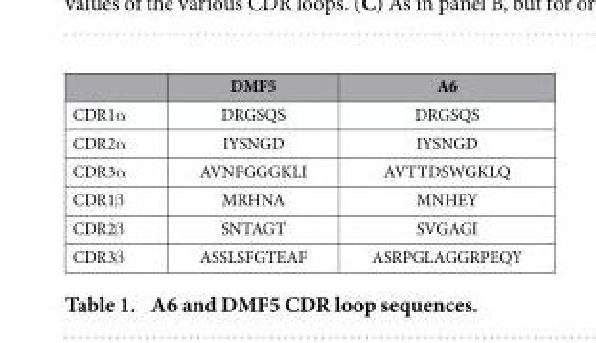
<table><thead><tr><td></td><td>DMF5</td><td>A6</td></tr></thead><tbody><tr><td>CDR1α</td><td>DRGSQS</td><td>DRGSQS</td></tr><tr><td>CDR2α</td><td>IYSNGD</td><td>IYSNGD</td></tr><tr><td>CDR3α</td><td>AVNFGGGKLI</td><td>AVTTDSWGKLQ</td></tr><tr><td>CDR1β</td><td>MRHNA</td><td>MNHEY</td></tr><tr><td>CDR2β</td><td>SNTAGT</td><td>SVGAGI</td></tr><tr><td>CDR3β</td><td>ASSLSFGTEAF</td><td>ASRPGLAGGRPEQY</td></tr></tbody></table>